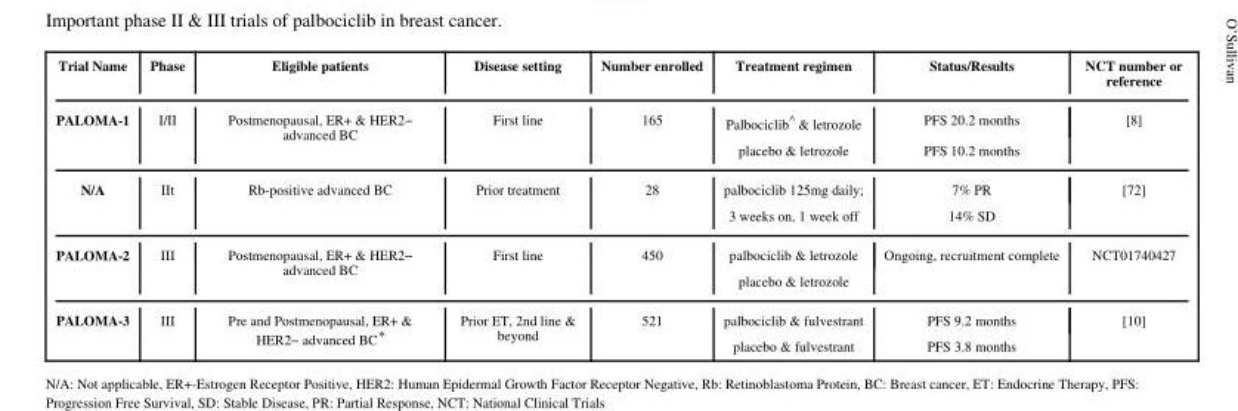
<table><thead><tr><td>Trial Name</td><td>Phase</td><td>Eligible patients</td><td>Disease setting</td><td>Number enrolled</td><td>Treatment regimen</td><td>Status/Results</td><td>NCT number or reference</td></tr></thead><tbody><tr><td rowspan="2">PALOMA-1</td><td rowspan="2">I/II</td><td rowspan="2">Postmenopausal, ER+ &amp; HER2− advanced BC</td><td rowspan="2">First line</td><td rowspan="2">165</td><td>Palbociclib^ &amp; letrozole</td><td>PFS 20.2 months</td><td rowspan="2">[8]</td></tr><tr><td>placebo &amp; letrozole</td><td>PFS 10.2 months</td></tr><tr><td rowspan="2">N/A</td><td rowspan="2">IIt</td><td rowspan="2">Rb-positive advanced BC</td><td rowspan="2">Prior treatment</td><td rowspan="2">28</td><td>palbociclib 125mg daily;</td><td>7% PR</td><td rowspan="2">[72]</td></tr><tr><td>3 weeks on, 1 week off</td><td>14% SD</td></tr><tr><td rowspan="2">PALOMA-2</td><td rowspan="2">III</td><td rowspan="2">Postmenopausal, ER+ &amp; HER2− advanced BC</td><td rowspan="2">First line</td><td rowspan="2">450</td><td>palbociclib &amp; letrozole</td><td rowspan="2">Ongoing, recruitment complete</td><td rowspan="2">NCT01740427</td></tr><tr><td>placebo &amp; letrozole</td></tr><tr><td rowspan="2">PALOMA-3</td><td rowspan="2">III</td><td rowspan="2">Pre and Postmenopausal, ER+ &amp; HER2− advanced BC*</td><td rowspan="2">Prior ET, 2nd line &amp; beyond</td><td rowspan="2">521</td><td>palbociclib &amp; fulvestrant</td><td>PFS 9.2 months</td><td rowspan="2">[10]</td></tr><tr><td>placebo &amp; fulvestrant</td><td>PFS 3.8 months</td></tr></tbody></table>